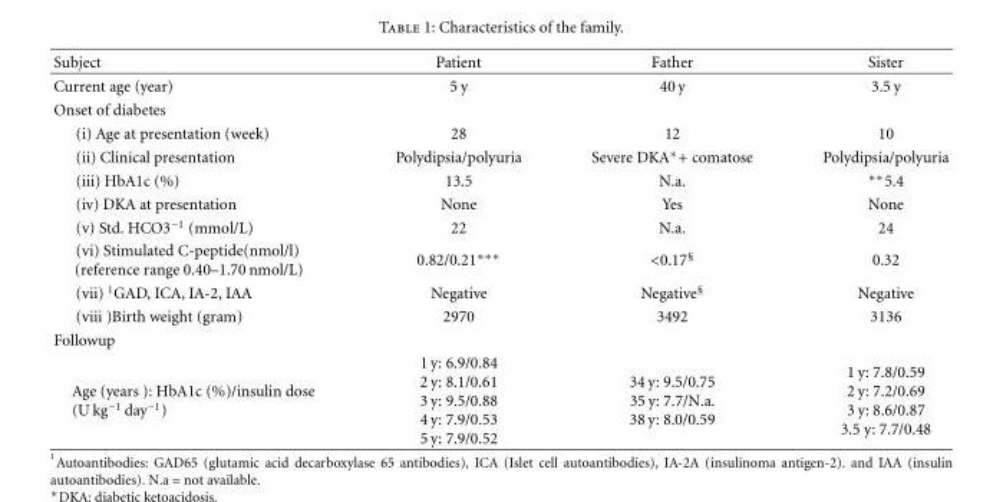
<table><thead><tr><td>Subject</td><td>Patient</td><td>Father</td><td>Sister</td></tr></thead><tbody><tr><td>Current age (year)</td><td>5 y</td><td>40 y</td><td>3.5 y</td></tr><tr><td colspan="4">Onset of diabetes</td></tr><tr><td>(i) Age at presentation (week)</td><td>28</td><td>12</td><td>10</td></tr><tr><td>(ii) Clinical presentation</td><td>Polydipsia/polyuria</td><td>Severe DKA∗+ comatose</td><td>Polydipsia/polyuria</td></tr><tr><td>(iii) HbA1c (%)</td><td>13.5</td><td>N.a.</td><td>∗∗5.4</td></tr><tr><td>(iv) DKA at presentation</td><td>None</td><td>Yes</td><td>None</td></tr><tr><td>(v) Std. HCO3<sup>−1</sup> (mmol/L)</td><td>22</td><td>N.a.</td><td>24</td></tr><tr><td>(vi) Stimulated C-peptide(nmol/l) (reference range 0.40–1.70 nmol/L)</td><td>0.82/0.21∗∗∗</td><td>&lt;0.17<sup>§</sup></td><td>0.32</td></tr><tr><td>(vii) <sup>1</sup>GAD, ICA, IA-2, IAA</td><td>Negative</td><td>Negative<sup>§</sup></td><td>Negative</td></tr><tr><td>(viii )Birth weight (gram)</td><td>2970</td><td>3492</td><td>3136</td></tr><tr><td colspan="4">Followup</td></tr><tr><td>Age (years ): HbA1c (%)/insulin dose (U kg<sup>−1</sup> day<sup>−1</sup>)</td><td>1 y: 6.9/0.84 2 y: 8.1/0.61 3 y: 9.5/0.88 4 y: 7.9/0.53 5 y: 7.9/0.52</td><td>34 y: 9.5/0.75 35 y: 7.7/N.a. 38 y: 8.0/0.59</td><td>1 y: 7.8/0.59 2 y: 7.2/0.69 3 y: 8.6/0.87 3.5 y: 7.7/0.48</td></tr></tbody></table>